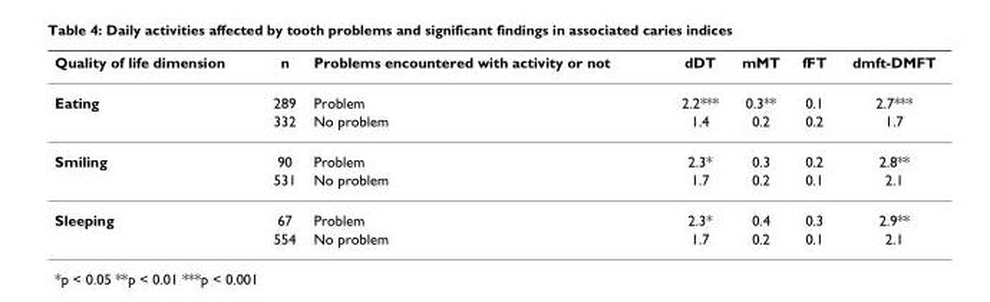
<table><thead><tr><td>Quality of life dimension</td><td>n</td><td>Problems encountered with activity or not</td><td>dDT</td><td>mMT</td><td>fFT</td><td>dmft-DMFT</td></tr></thead><tbody><tr><td rowspan="2">Eating</td><td>289</td><td>Problem</td><td>2.2***</td><td>0.3**</td><td>0.1</td><td>2.7***</td></tr><tr><td>332</td><td>No problem</td><td>1.4</td><td>0.2</td><td>0.2</td><td>1.7</td></tr><tr><td rowspan="2">Smiling</td><td>90</td><td>Problem</td><td>2.3*</td><td>0.3</td><td>0.2</td><td>2.8**</td></tr><tr><td>531</td><td>No problem</td><td>1.7</td><td>0.2</td><td>0.1</td><td>2.1</td></tr><tr><td rowspan="2">Sleeping</td><td>67</td><td>Problem</td><td>2.3*</td><td>0.4</td><td>0.3</td><td>2.9**</td></tr><tr><td>554</td><td>No problem</td><td>1.7</td><td>0.2</td><td>0.1</td><td>2.1</td></tr></tbody></table>